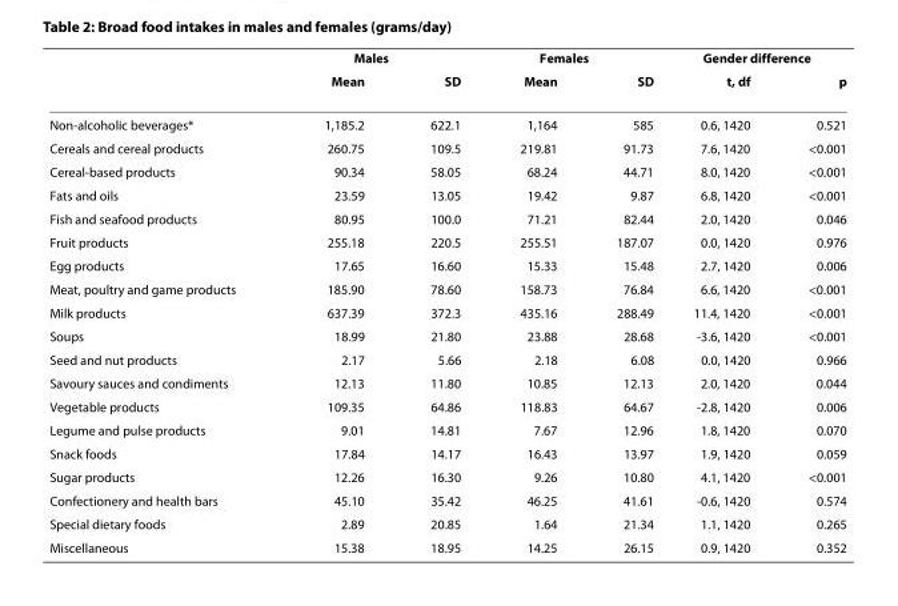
<table><thead><tr><td rowspan="2"></td><td colspan="2">Males</td><td colspan="2">Females</td><td colspan="2">Gender difference</td></tr><tr><td>Mean</td><td>SD</td><td>Mean</td><td>SD</td><td>t, df</td><td>p</td></tr></thead><tbody><tr><td>Non-alcoholic beverages*</td><td>1,185.2</td><td>622.1</td><td>1,164</td><td>585</td><td>0.6, 1420</td><td>0.521</td></tr><tr><td>Cereals and cereal products</td><td>260.75</td><td>109.5</td><td>219.81</td><td>91.73</td><td>7.6, 1420</td><td>&lt;0.001</td></tr><tr><td>Cereal-based products</td><td>90.34</td><td>58.05</td><td>68.24</td><td>44.71</td><td>8.0, 1420</td><td>&lt;0.001</td></tr><tr><td>Fats and oils</td><td>23.59</td><td>13.05</td><td>19.42</td><td>9.87</td><td>6.8, 1420</td><td>&lt;0.001</td></tr><tr><td>Fish and seafood products</td><td>80.95</td><td>100.0</td><td>71.21</td><td>82.44</td><td>2.0, 1420</td><td>0.046</td></tr><tr><td>Fruit products</td><td>255.18</td><td>220.5</td><td>255.51</td><td>187.07</td><td>0.0, 1420</td><td>0.976</td></tr><tr><td>Egg products</td><td>17.65</td><td>16.60</td><td>15.33</td><td>15.48</td><td>2.7, 1420</td><td>0.006</td></tr><tr><td>Meat, poultry and game products</td><td>185.90</td><td>78.60</td><td>158.73</td><td>76.84</td><td>6.6, 1420</td><td>&lt;0.001</td></tr><tr><td>Milk products</td><td>637.39</td><td>372.3</td><td>435.16</td><td>288.49</td><td>11.4, 1420</td><td>&lt;0.001</td></tr><tr><td>Soups</td><td>18.99</td><td>21.80</td><td>23.88</td><td>28.68</td><td>-3.6, 1420</td><td>&lt;0.001</td></tr><tr><td>Seed and nut products</td><td>2.17</td><td>5.66</td><td>2.18</td><td>6.08</td><td>0.0, 1420</td><td>0.966</td></tr><tr><td>Savoury sauces and condiments</td><td>12.13</td><td>11.80</td><td>10.85</td><td>12.13</td><td>2.0, 1420</td><td>0.044</td></tr><tr><td>Vegetable products</td><td>109.35</td><td>64.86</td><td>118.83</td><td>64.67</td><td>-2.8, 1420</td><td>0.006</td></tr><tr><td>Legume and pulse products</td><td>9.01</td><td>14.81</td><td>7.67</td><td>12.96</td><td>1.8, 1420</td><td>0.070</td></tr><tr><td>Snack foods</td><td>17.84</td><td>14.17</td><td>16.43</td><td>13.97</td><td>1.9, 1420</td><td>0.059</td></tr><tr><td>Sugar products</td><td>12.26</td><td>16.30</td><td>9.26</td><td>10.80</td><td>4.1, 1420</td><td>&lt;0.001</td></tr><tr><td>Confectionery and health bars</td><td>45.10</td><td>35.42</td><td>46.25</td><td>41.61</td><td>-0.6, 1420</td><td>0.574</td></tr><tr><td>Special dietary foods</td><td>2.89</td><td>20.85</td><td>1.64</td><td>21.34</td><td>1.1, 1420</td><td>0.265</td></tr><tr><td>Miscellaneous</td><td>15.38</td><td>18.95</td><td>14.25</td><td>26.15</td><td>0.9, 1420</td><td>0.352</td></tr></tbody></table>